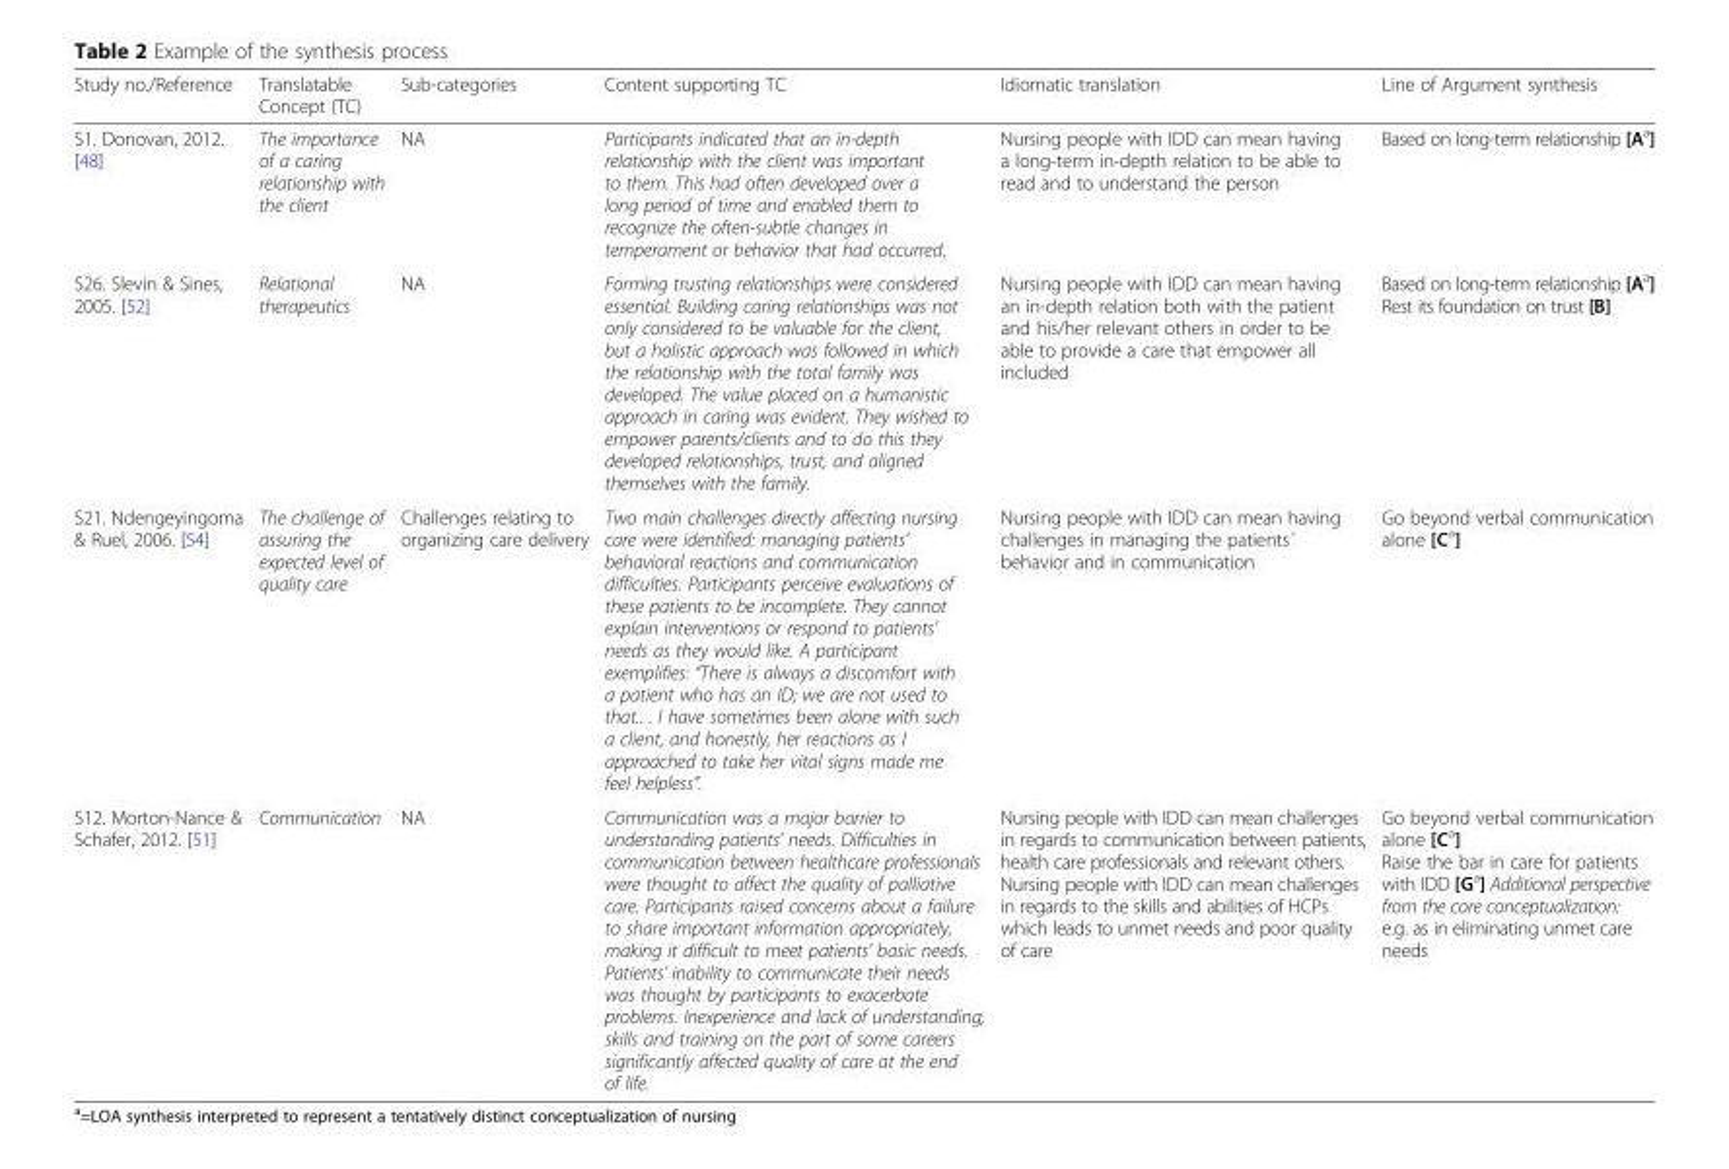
<table><thead><tr><td>Study no./Reference</td><td>Translatable Concept (TC)</td><td>Sub-categories</td><td>Content supporting TC</td><td>Idiomatic translation</td><td>Line of Argument synthesis</td></tr></thead><tbody><tr><td>S1. Donovan, 2012. [48]</td><td>The importance of a caring relationship with the client</td><td>NA</td><td>Participants indicated that an in-depth relationship with the client was important to them. This had often developed over a long period of time and enabled them to recognize the often-subtle changes in temperament or behavior that had occurred.</td><td>Nursing people with IDD can mean having a long-term in-depth relation to be able to read and to understand the person</td><td>Based on long-term relationship [A<sup>a</sup>]</td></tr><tr><td>S26. Slevin &amp; Sines, 2005. [52]</td><td>Relational therapeutics</td><td>NA</td><td>Forming trusting relationships were considered essential. Building caring relationships was not only considered to be valuable for the client, but a holistic approach was followed in which the relationship with the total family was developed. The value placed on a humanistic approach in caring was evident. They wished to empower parents/clients and to do this they developed relationships, trust, and aligned themselves with the family.</td><td>Nursing people with IDD can mean having an in-depth relation both with the patient and his/her relevant others in order to be able to provide a care that empower all included</td><td>Based on long-term relationship [A<sup>a</sup>] Rest its foundation on trust [B]</td></tr><tr><td>S21. Ndengeyingoma &amp; Ruel, 2006. [54]</td><td>The challenge of assuring the expected level of quality care</td><td>Challenges relating to organizing care delivery</td><td>Two main challenges directly affecting nursing care were identified: managing patients’ behavioral reactions and communication difficulties. Participants perceive evaluations of these patients to be incomplete. They cannot explain interventions or respond to patients’ needs as they would like. A participant exemplifies: “There is always a discomfort with a patient who has an ID; we are not used to that.. . I have sometimes been alone with such a client, and honestly, her reactions as I approached to take her vital signs made me feel helpless”.</td><td>Nursing people with IDD can mean having challenges in managing the patients´ behavior and in communication</td><td>Go beyond verbal communication alone [C<sup>a</sup>]</td></tr><tr><td>S12. Morton-Nance &amp; Schafer, 2012. [51]</td><td>Communication</td><td>NA</td><td>Communication was a major barrier to understanding patients’ needs. Difficulties in communication between healthcare professionals were thought to affect the quality of palliative care. Participants raised concerns about a failure to share important information appropriately, making it difficult to meet patients’ basic needs. Patients’ inability to communicate their needs was thought by participants to exacerbate problems. Inexperience and lack of understanding, skills and training on the part of some careers significantly affected quality of care at the end of life.</td><td>Nursing people with IDD can mean challenges in regards to communication between patients, health care professionals and relevant others. Nursing people with IDD can mean challenges in regards to the skills and abilities of HCPs which leads to unmet needs and poor quality of care</td><td>Go beyond verbal communication alone [C<sup>a</sup>] Raise the bar in care for patients with IDD [G<sup>a</sup>] Additional perspective from the core conceptualization: e.g. as in eliminating unmet care needs</td></tr></tbody></table>